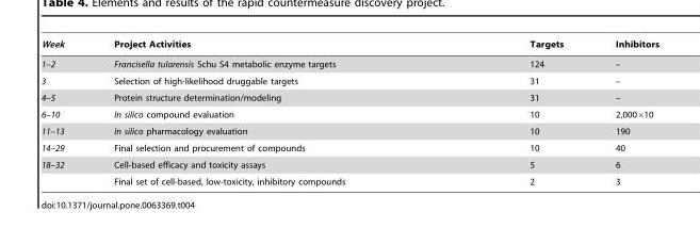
<table><thead><tr><td>Week</td><td>Project Activities</td><td>Targets</td><td>Inhibitors</td></tr></thead><tbody><tr><td>1–2</td><td>Francisella tularensis Schu S4 metabolic enzyme targets</td><td>124</td><td>–</td></tr><tr><td>3</td><td>Selection of high-likelihood druggable targets</td><td>31</td><td>–</td></tr><tr><td>4–5</td><td>Protein structure determination/modeling</td><td>31</td><td>–</td></tr><tr><td>6–10</td><td>In silico compound evaluation</td><td>10</td><td>2,000×10</td></tr><tr><td>11–13</td><td>In silico pharmacology evaluation</td><td>10</td><td>190</td></tr><tr><td>14–29</td><td>Final selection and procurement of compounds</td><td>10</td><td>40</td></tr><tr><td rowspan="2">18–32</td><td>Cell-based efficacy and toxicity assays</td><td>5</td><td>6</td></tr><tr><td>Final set of cell-based, low-toxicity, inhibitory compounds</td><td>2</td><td>3</td></tr></tbody></table>